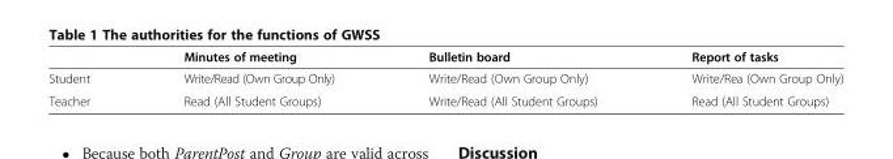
<table><thead><tr><td></td><td>Minutes of meeting</td><td>Bulletin board</td><td>Report of tasks</td></tr></thead><tbody><tr><td>Student</td><td>Write/Read (Own Group Only)</td><td>Write/Read (Own Group Only)</td><td>Write/Rea (Own Group Only)</td></tr><tr><td>Teacher</td><td>Read (All Student Groups)</td><td>Write/Read (All Student Groups)</td><td>Read (All Student Groups)</td></tr></tbody></table>